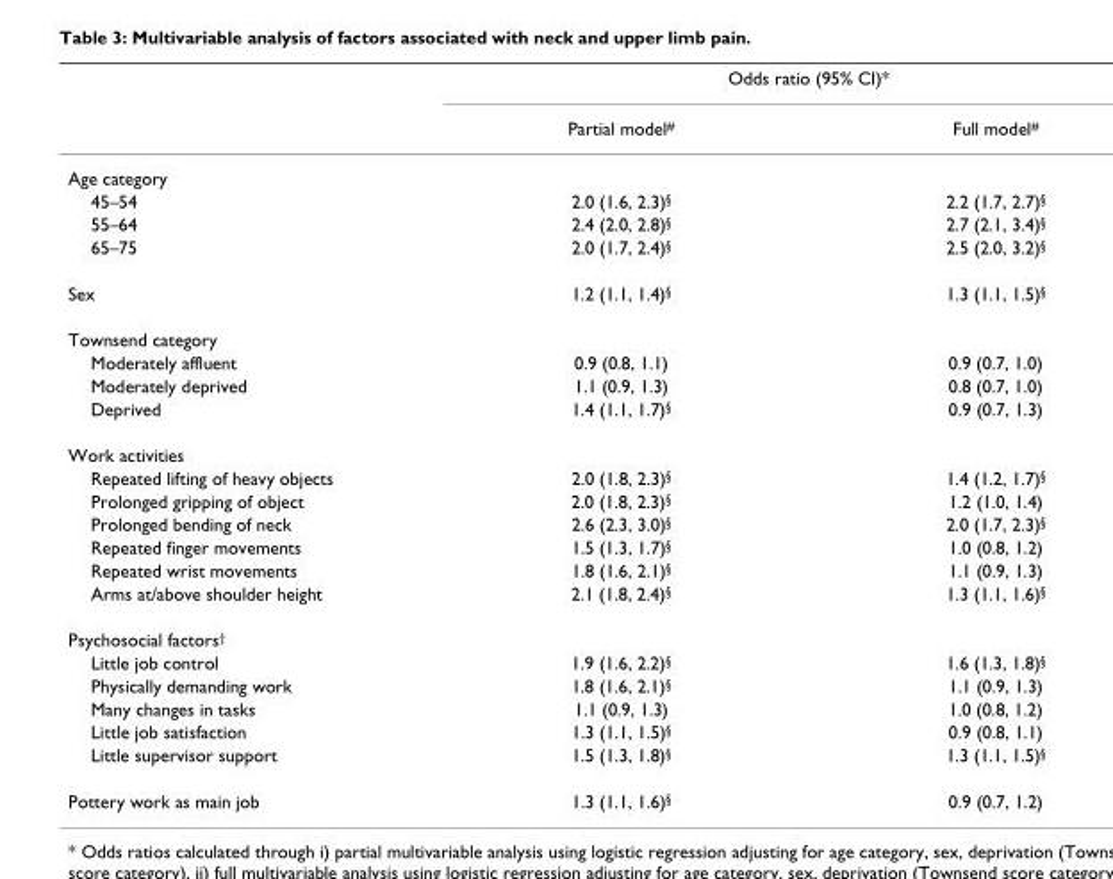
<table><thead><tr><td rowspan="2"></td><td colspan="2">Odds ratio (95% CI)*</td></tr><tr><td>Partial model#</td><td>Full model#</td></tr></thead><tbody><tr><td colspan="3">Age category</td></tr><tr><td>45–54</td><td>2.0 (1.6, 2.3)§</td><td>2.2 (1.7, 2.7)§</td></tr><tr><td>55–64</td><td>2.4 (2.0, 2.8)§</td><td>2.7 (2.1, 3.4)§</td></tr><tr><td>65–75</td><td>2.0 (1.7, 2.4)§</td><td>2.5 (2.0, 3.2)§</td></tr><tr><td>Sex</td><td>1.2 (1.1, 1.4)§</td><td>1.3 (1.1, 1.5)§</td></tr><tr><td colspan="3">Townsend category</td></tr><tr><td>Moderately affluent</td><td>0.9 (0.8, 1.1)</td><td>0.9 (0.7, 1.0)</td></tr><tr><td>Moderately deprived</td><td>1.1 (0.9, 1.3)</td><td>0.8 (0.7, 1.0)</td></tr><tr><td>Deprived</td><td>1.4 (1.1, 1.7)§</td><td>0.9 (0.7, 1.3)</td></tr><tr><td colspan="3">Work activities</td></tr><tr><td>Repeated lifting of heavy objects</td><td>2.0 (1.8, 2.3)§</td><td>1.4 (1.2, 1.7)§</td></tr><tr><td>Prolonged gripping of object</td><td>2.0 (1.8, 2.3)§</td><td>1.2 (1.0, 1.4)</td></tr><tr><td>Prolonged bending of neck</td><td>2.6 (2.3, 3.0)§</td><td>2.0 (1.7, 2.3)§</td></tr><tr><td>Repeated finger movements</td><td>1.5 (1.3, 1.7)§</td><td>1.0 (0.8, 1.2)</td></tr><tr><td>Repeated wrist movements</td><td>1.8 (1.6, 2.1)§</td><td>1.1 (0.9, 1.3)</td></tr><tr><td>Arms at/above shoulder height</td><td>2.1 (1.8, 2.4)§</td><td>1.3 (1.1, 1.6)§</td></tr><tr><td colspan="3">Psychosocial factors†</td></tr><tr><td>Little job control</td><td>1.9 (1.6, 2.2)§</td><td>1.6 (1.3, 1.8)§</td></tr><tr><td>Physically demanding work</td><td>1.8 (1.6, 2.1)§</td><td>1.1 (0.9, 1.3)</td></tr><tr><td>Many changes in tasks</td><td>1.1 (0.9, 1.3)</td><td>1.0 (0.8, 1.2)</td></tr><tr><td>Little job satisfaction</td><td>1.3 (1.1, 1.5)§</td><td>0.9 (0.8, 1.1)</td></tr><tr><td>Little supervisor support</td><td>1.5 (1.3, 1.8)§</td><td>1.3 (1.1, 1.5)§</td></tr><tr><td>Pottery work as main job</td><td>1.3 (1.1, 1.6)§</td><td>0.9 (0.7, 1.2)</td></tr></tbody></table>